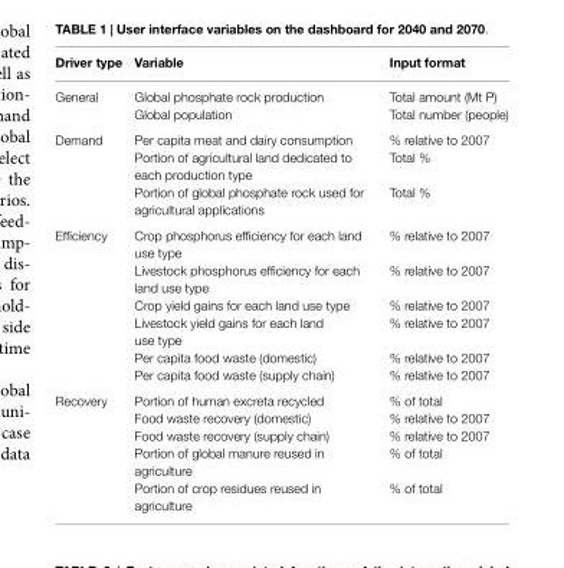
<table><thead><tr><td>Driver type</td><td>Variable</td><td>Input format</td></tr></thead><tbody><tr><td rowspan="2">General</td><td>Global phosphate rock production</td><td>Total amount (Mt P)</td></tr><tr><td>Global population</td><td>Total number (people)</td></tr><tr><td rowspan="3">Demand</td><td>Per capita meat and dairy consumption</td><td>% relative to 2007</td></tr><tr><td>Portion of agricultural land dedicated to each production type</td><td>Total %</td></tr><tr><td>Portion of global phosphate rock used for agricultural applications</td><td>Total %</td></tr><tr><td rowspan="6">Efficiency</td><td>Crop phosphorus efficiency for each land use type</td><td>% relative to 2007</td></tr><tr><td>Livestock phosphorus efficiency for each land use type</td><td>% relative to 2007</td></tr><tr><td>Crop yield gains for each land use type</td><td>% relative to 2007</td></tr><tr><td>Livestock yield gains for each land use type</td><td>% relative to 2007</td></tr><tr><td>Per capita food waste (domestic)</td><td>% relative to 2007</td></tr><tr><td>Per capita food waste (supply chain)</td><td>% relative to 2007</td></tr><tr><td rowspan="5">Recovery</td><td>Portion of human excreta recycled</td><td>% of total</td></tr><tr><td>Food waste recovery (domestic)</td><td>% relative to 2007</td></tr><tr><td>Food waste recovery (supply chain)</td><td>% relative to 2007</td></tr><tr><td>Portion of global manure reused in agriculture</td><td>% of total</td></tr><tr><td>Portion of crop residues reused in agriculture</td><td>% of total</td></tr></tbody></table>